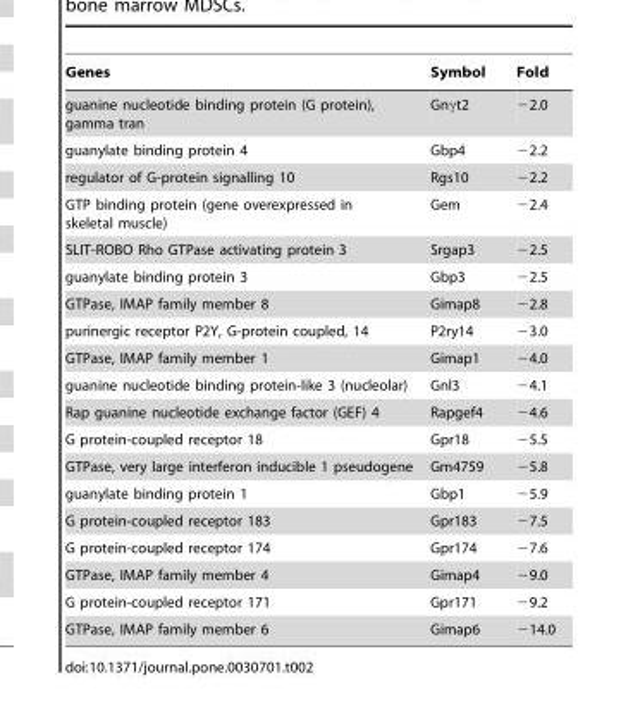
<table><thead><tr><td>Genes</td><td>Symbol</td><td>Fold</td></tr></thead><tbody><tr><td>guanine nucleotide binding protein (G protein), gamma tran</td><td>Gnγt2</td><td>−2.0</td></tr><tr><td>guanylate binding protein 4</td><td>Gbp4</td><td>−2.2</td></tr><tr><td>regulator of G-protein signalling 10</td><td>Rgs10</td><td>−2.2</td></tr><tr><td>GTP binding protein (gene overexpressed in skeletal muscle)</td><td>Gem</td><td>−2.4</td></tr><tr><td>SLIT-ROBO Rho GTPase activating protein 3</td><td>Srgap3</td><td>−2.5</td></tr><tr><td>guanylate binding protein 3</td><td>Gbp3</td><td>−2.5</td></tr><tr><td>GTPase, IMAP family member 8</td><td>Gimap8</td><td>−2.8</td></tr><tr><td>purinergic receptor P2Y, G-protein coupled, 14</td><td>P2ry14</td><td>−3.0</td></tr><tr><td>GTPase, IMAP family member 1</td><td>Gimap1</td><td>−4.0</td></tr><tr><td>guanine nucleotide binding protein-like 3 (nucleolar)</td><td>Gnl3</td><td>−4.1</td></tr><tr><td>Rap guanine nucleotide exchange factor (GEF) 4</td><td>Rapgef4</td><td>−4.6</td></tr><tr><td>G protein-coupled receptor 18</td><td>Gpr18</td><td>−5.5</td></tr><tr><td>GTPase, very large interferon inducible 1 pseudogene</td><td>Gm4759</td><td>−5.8</td></tr><tr><td>guanylate binding protein 1</td><td>Gbp1</td><td>−5.9</td></tr><tr><td>G protein-coupled receptor 183</td><td>Gpr183</td><td>−7.5</td></tr><tr><td>G protein-coupled receptor 174</td><td>Gpr174</td><td>−7.6</td></tr><tr><td>GTPase, IMAP family member 4</td><td>Gimap4</td><td>−9.0</td></tr><tr><td>G protein-coupled receptor 171</td><td>Gpr171</td><td>−9.2</td></tr><tr><td>GTPase, IMAP family member 6</td><td>Gimap6</td><td>−14.0</td></tr></tbody></table>